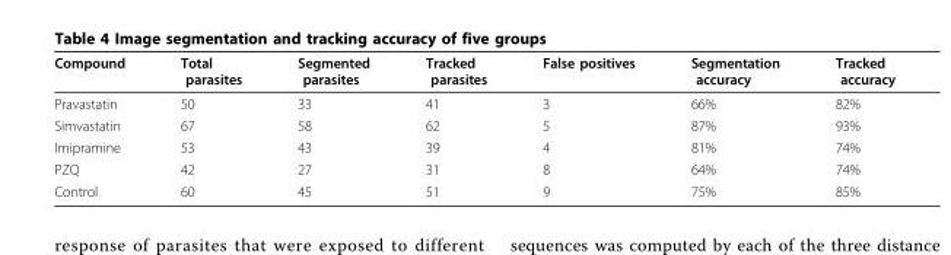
<table><thead><tr><td>Compound</td><td>Total parasites</td><td>Segmented parasites</td><td>Tracked parasites</td><td>False positives</td><td>Segmentation accuracy</td><td>Tracked accuracy</td></tr></thead><tbody><tr><td>Pravastatin</td><td>50</td><td>33</td><td>41</td><td>3</td><td>66%</td><td>82%</td></tr><tr><td>Simvastatin</td><td>67</td><td>58</td><td>62</td><td>5</td><td>87%</td><td>93%</td></tr><tr><td>Imipramine</td><td>53</td><td>43</td><td>39</td><td>4</td><td>81%</td><td>74%</td></tr><tr><td>PZQ</td><td>42</td><td>27</td><td>31</td><td>8</td><td>64%</td><td>74%</td></tr><tr><td>Control</td><td>60</td><td>45</td><td>51</td><td>9</td><td>75%</td><td>85%</td></tr></tbody></table>